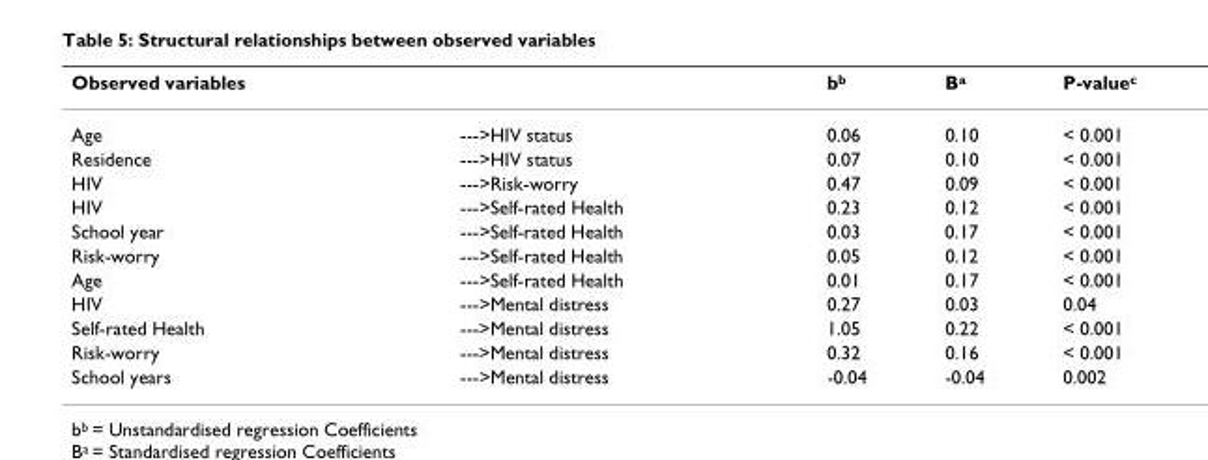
<table><thead><tr><td>Observed variables</td><td></td><td>b<sup>b</sup></td><td>B<sup>a</sup></td><td>P-value<sup>c</sup></td></tr></thead><tbody><tr><td>Age</td><td>---&gt;HIV status</td><td>0.06</td><td>0.10</td><td>&lt; 0.001</td></tr><tr><td>Residence</td><td>---&gt;HIV status</td><td>0.07</td><td>0.10</td><td>&lt; 0.001</td></tr><tr><td>HIV</td><td>---&gt;Risk-worry</td><td>0.47</td><td>0.09</td><td>&lt; 0.001</td></tr><tr><td>HIV</td><td>---&gt;Self-rated Health</td><td>0.23</td><td>0.12</td><td>&lt; 0.001</td></tr><tr><td>School year</td><td>---&gt;Self-rated Health</td><td>0.03</td><td>0.17</td><td>&lt; 0.001</td></tr><tr><td>Risk-worry</td><td>---&gt;Self-rated Health</td><td>0.05</td><td>0.12</td><td>&lt; 0.001</td></tr><tr><td>Age</td><td>---&gt;Self-rated Health</td><td>0.01</td><td>0.17</td><td>&lt; 0.001</td></tr><tr><td>HIV</td><td>---&gt;Mental distress</td><td>0.27</td><td>0.03</td><td>0.04</td></tr><tr><td>Self-rated Health</td><td>---&gt;Mental distress</td><td>1.05</td><td>0.22</td><td>&lt; 0.001</td></tr><tr><td>Risk-worry</td><td>---&gt;Mental distress</td><td>0.32</td><td>0.16</td><td>&lt; 0.001</td></tr><tr><td>School years</td><td>---&gt;Mental distress</td><td>-0.04</td><td>-0.04</td><td>0.002</td></tr></tbody></table>